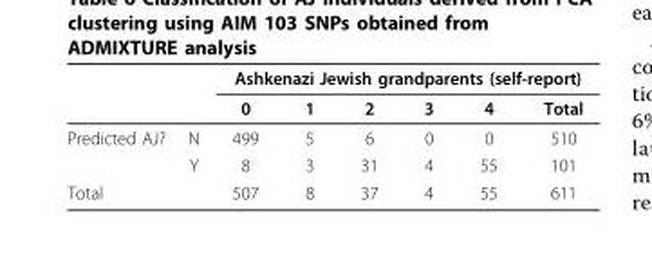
<table><thead><tr><td rowspan="2"></td><td rowspan="2"></td><td colspan="6">Ashkenazi Jewish grandparents (self-report)</td></tr><tr><td>0</td><td>1</td><td>2</td><td>3</td><td>4</td><td>Total</td></tr></thead><tbody><tr><td rowspan="2">Predicted AJ?</td><td>N</td><td>499</td><td>5</td><td>6</td><td>0</td><td>0</td><td>510</td></tr><tr><td>Y</td><td>8</td><td>3</td><td>31</td><td>4</td><td>55</td><td>101</td></tr><tr><td>Total</td><td></td><td>507</td><td>8</td><td>37</td><td>4</td><td>55</td><td>611</td></tr></tbody></table>